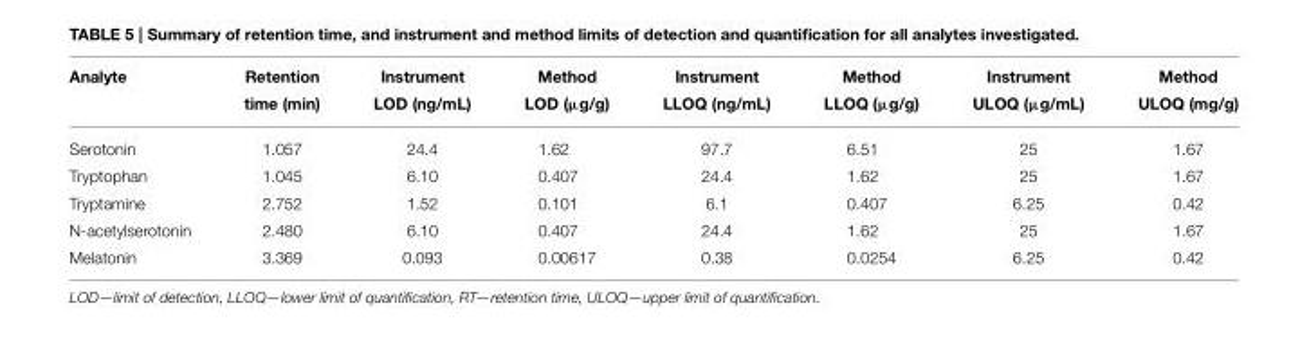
<table><thead><tr><td>Analyte</td><td>Retention time (min)</td><td>Instrument LOD (ng/mL)</td><td>Method LOD (µg/g)</td><td>Instrument LLOQ (ng/mL)</td><td>Method LLOQ (µg/g)</td><td>Instrument ULOQ (µg/mL)</td><td>Method ULOQ (mg/g)</td></tr></thead><tbody><tr><td>Serotonin</td><td>1.057</td><td>24.4</td><td>1.62</td><td>97.7</td><td>6.51</td><td>25</td><td>1.67</td></tr><tr><td>Tryptophan</td><td>1.045</td><td>6.10</td><td>0.407</td><td>24.4</td><td>1.62</td><td>25</td><td>1.67</td></tr><tr><td>Tryptamine</td><td>2.752</td><td>1.52</td><td>0.101</td><td>6.1</td><td>0.407</td><td>6.25</td><td>0.42</td></tr><tr><td>N-acetylserotonin</td><td>2.480</td><td>6.10</td><td>0.407</td><td>24.4</td><td>1.62</td><td>25</td><td>1.67</td></tr><tr><td>Melatonin</td><td>3.369</td><td>0.093</td><td>0.00617</td><td>0.38</td><td>0.0254</td><td>6.25</td><td>0.42</td></tr></tbody></table>